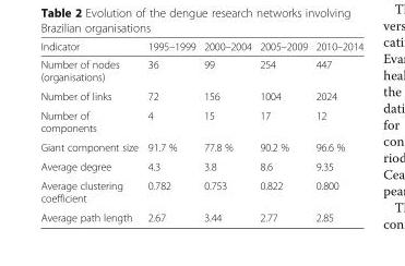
<table><thead><tr><td>Indicator</td><td>1995–1999</td><td>2000–2004</td><td>2005–2009</td><td>2010–2014</td></tr></thead><tbody><tr><td>Number of nodes (organisations)</td><td>36</td><td>99</td><td>254</td><td>447</td></tr><tr><td>Number of links</td><td>72</td><td>156</td><td>1004</td><td>2024</td></tr><tr><td>Number of components</td><td>4</td><td>15</td><td>17</td><td>12</td></tr><tr><td>Giant component size</td><td>91.7 %</td><td>77.8 %</td><td>90.2 %</td><td>96.6 %</td></tr><tr><td>Average degree</td><td>4.3</td><td>3.8</td><td>8.6</td><td>9.35</td></tr><tr><td>Average clustering coefficient</td><td>0.782</td><td>0.753</td><td>0.822</td><td>0.800</td></tr><tr><td>Average path length</td><td>2.67</td><td>3.44</td><td>2.77</td><td>2.85</td></tr></tbody></table>